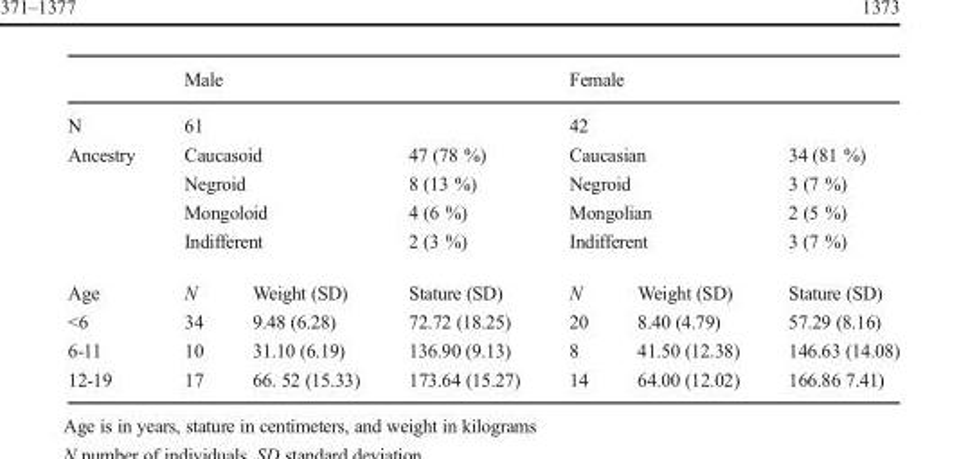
<table><thead><tr><td></td><td colspan="3">Male</td><td colspan="3">Female</td></tr></thead><tbody><tr><td>N</td><td colspan="3">61</td><td colspan="3">42</td></tr><tr><td rowspan="4">Ancestry</td><td colspan="2">Caucasoid</td><td>47 (78 %)</td><td colspan="2">Caucasian</td><td>34 (81 %)</td></tr><tr><td colspan="2">Negroid</td><td>8 (13 %)</td><td colspan="2">Negroid</td><td>3 (7 %)</td></tr><tr><td colspan="2">Mongoloid</td><td>4 (6 %)</td><td colspan="2">Mongolian</td><td>2 (5 %)</td></tr><tr><td colspan="2">Indifferent</td><td>2 (3 %)</td><td colspan="2">Indifferent</td><td>3 (7 %)</td></tr><tr><td>Age</td><td>N</td><td>Weight (SD)</td><td>Stature (SD)</td><td>N</td><td>Weight (SD)</td><td>Stature (SD)</td></tr><tr><td>&lt;6</td><td>34</td><td>9.48 (6.28)</td><td>72.72 (18.25)</td><td>20</td><td>8.40 (4.79)</td><td>57.29 (8.16)</td></tr><tr><td>6-11</td><td>10</td><td>31.10 (6.19)</td><td>136.90 (9.13)</td><td>8</td><td>41.50 (12.38)</td><td>146.63 (14.08)</td></tr><tr><td>12-19</td><td>17</td><td>66. 52 (15.33)</td><td>173.64 (15.27)</td><td>14</td><td>64.00 (12.02)</td><td>166.86 7.41)</td></tr></tbody></table>